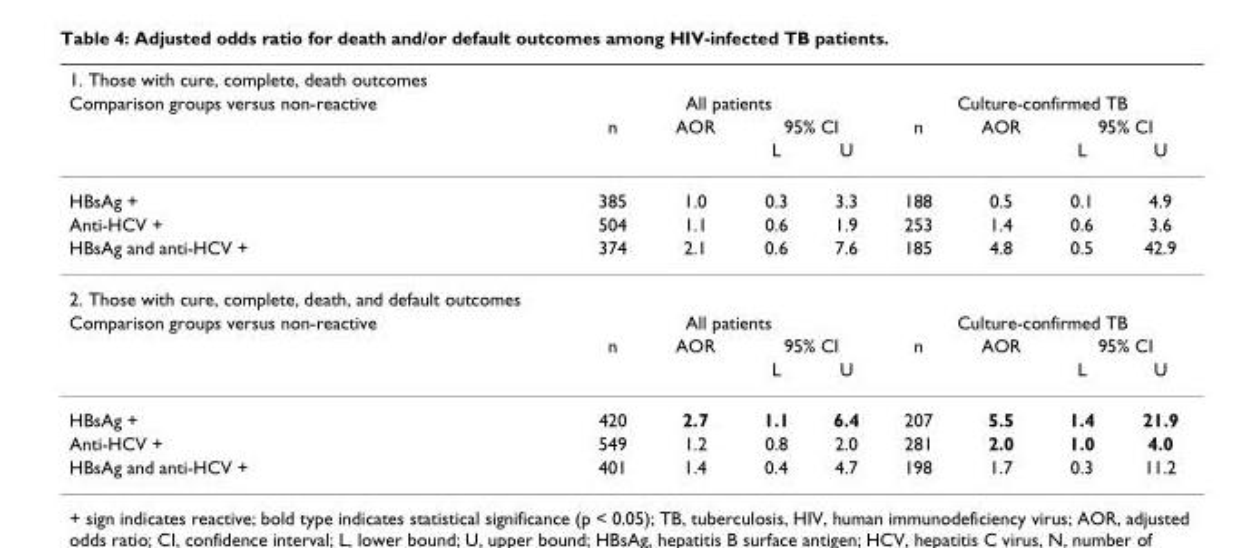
<table><thead><tr><td colspan="9">1. Those with cure, complete, death outcomes</td></tr><tr><td rowspan="3">Comparison groups versus non-reactive</td><td colspan="4">All patients</td><td colspan="4">Culture-confirmed TB</td></tr><tr><td rowspan="2">n</td><td rowspan="2">AOR</td><td colspan="2">95% CI</td><td rowspan="2">n</td><td rowspan="2">AOR</td><td colspan="2">95% CI</td></tr><tr><td>L</td><td>U</td><td>L</td><td>U</td></tr></thead><tbody><tr><td>HBsAg +</td><td>385</td><td>1.0</td><td>0.3</td><td>3.3</td><td>188</td><td>0.5</td><td>0.1</td><td>4.9</td></tr><tr><td>Anti-HCV +</td><td>504</td><td>1.1</td><td>0.6</td><td>1.9</td><td>253</td><td>1.4</td><td>0.6</td><td>3.6</td></tr><tr><td>HBsAg and anti-HCV +</td><td>374</td><td>2.1</td><td>0.6</td><td>7.6</td><td>185</td><td>4.8</td><td>0.5</td><td>42.9</td></tr><tr><td colspan="9">2. Those with cure, complete, death, and default outcomes</td></tr><tr><td rowspan="3">Comparison groups versus non-reactive</td><td colspan="4">All patients</td><td colspan="4">Culture-confirmed TB</td></tr><tr><td>n</td><td>AOR</td><td colspan="2">95% CI</td><td>n</td><td>AOR</td><td colspan="2">95% CI</td></tr><tr><td></td><td></td><td>L</td><td>U</td><td></td><td></td><td>L</td><td>U</td></tr><tr><td>HBsAg +</td><td>420</td><td>2.7</td><td>1.1</td><td>6.4</td><td>207</td><td>5.5</td><td>1.4</td><td>21.9</td></tr><tr><td>Anti-HCV +</td><td>549</td><td>1.2</td><td>0.8</td><td>2.0</td><td>281</td><td>2.0</td><td>1.0</td><td>4.0</td></tr><tr><td>HBsAg and anti-HCV +</td><td>401</td><td>1.4</td><td>0.4</td><td>4.7</td><td>198</td><td>1.7</td><td>0.3</td><td>11.2</td></tr></tbody></table>